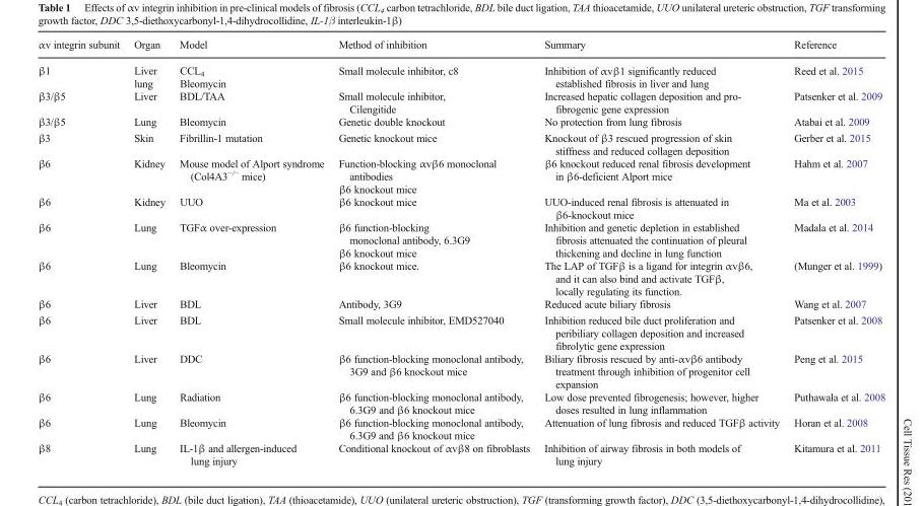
<table><thead><tr><td>αv integrin subunit</td><td>Organ</td><td>Model</td><td>Method of inhibition</td><td>Summary</td><td>Reference</td></tr></thead><tbody><tr><td>β1</td><td>Liver lung</td><td>CCL<sub>4</sub> Bleomycin</td><td>Small molecule inhibitor, c8</td><td>Inhibition of αvβ1 significantly reduced established fibrosis in liver and lung</td><td>Reed et al. 2015</td></tr><tr><td>β3/β5</td><td>Liver</td><td>BDL/TAA</td><td>Small molecule inhibitor, Cilengitide</td><td>Increased hepatic collagen deposition and pro- fibrogenic gene expression</td><td>Patsenker et al. 2009</td></tr><tr><td>β3/β5</td><td>Lung</td><td>Bleomycin</td><td>Genetic double knockout</td><td>No protection from lung fibrosis</td><td>Atabai et al. 2009</td></tr><tr><td>β3</td><td>Skin</td><td>Fibrillin-1 mutation</td><td>Genetic knockout mice</td><td>Knockout of β3 rescued progression of skin stiffness and reduced collagen deposition</td><td>Gerber et al. 2015</td></tr><tr><td>β6</td><td>Kidney</td><td>Mouse model of Alport syndrome (Col4A3<sup>−/−</sup> mice)</td><td>Function-blocking αvβ6 monoclonal antibodies β6 knockout mice</td><td>β6 knockout reduced renal fibrosis development in β6-deficient Alport mice</td><td>Hahm et al. 2007</td></tr><tr><td>β6</td><td>Kidney</td><td>UUO</td><td>β6 knockout mice</td><td>UUO-induced renal fibrosis is attenuated in β6-knockout mice</td><td>Ma et al. 2003</td></tr><tr><td>β6</td><td>Lung</td><td>TGFα over-expression</td><td>β6 function-blocking monoclonal antibody, 6.3G9 β6 knockout mice</td><td>Inhibition and genetic depletion in established fibrosis attenuated the continuation of pleural thickening and decline in lung function</td><td>Madala et al. 2014</td></tr><tr><td>β6</td><td>Lung</td><td>Bleomycin</td><td>β6 knockout mice.</td><td>The LAP of TGFβ is a ligand for integrin αvβ6, and it can also bind and activate TGFβ, locally regulating its function.</td><td>(Munger et al. 1999)</td></tr><tr><td>β6</td><td>Liver</td><td>BDL</td><td>Antibody, 3G9</td><td>Reduced acute biliary fibrosis</td><td>Wang et al. 2007</td></tr><tr><td>β6</td><td>Liver</td><td>BDL</td><td>Small molecule inhibitor, EMD527040</td><td>Inhibition reduced bile duct proliferation and peribiliary collagen deposition and increased fibrolytic gene expression</td><td>Patsenker et al. 2008</td></tr><tr><td>β6</td><td>Liver</td><td>DDC</td><td>β6 function-blocking monoclonal antibody, 3G9 and β6 knockout mice</td><td>Biliary fibrosis rescued by anti-αvβ6 antibody treatment through inhibition of progenitor cell expansion</td><td>Peng et al. 2015</td></tr><tr><td>β6</td><td>Lung</td><td>Radiation</td><td>β6 function-blocking monoclonal antibody, 6.3G9 and β6 knockout mice</td><td>Low dose prevented fibrogenesis; however, higher doses resulted in lung inflammation</td><td>Puthawala et al. 2008</td></tr><tr><td>β6</td><td>Lung</td><td>Bleomycin</td><td>β6 function-blocking monoclonal antibody, 6.3G9 and β6 knockout mice</td><td>Attenuation of lung fibrosis and reduced TGFβ activity</td><td>Horan et al. 2008</td></tr><tr><td>β8</td><td>Lung</td><td>IL-1β and allergen-induced lung injury</td><td>Conditional knockout of αvβ8 on fibroblasts</td><td>Inhibition of airway fibrosis in both models of lung injury</td><td>Kitamura et al. 2011</td></tr></tbody></table>